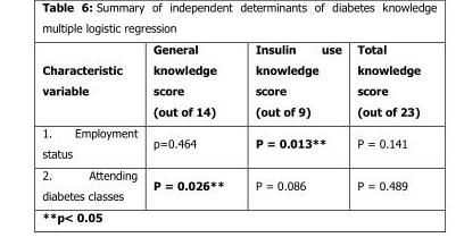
<table><thead><tr><td>Characteristic variable</td><td>General knowledge score (out of 14)</td><td>Insulin use knowledge score (out of 9)</td><td>Total knowledge score (out of 23)</td></tr></thead><tbody><tr><td>1. Employment status</td><td>p=0.464</td><td>P = 0.013**</td><td>P = 0.141</td></tr><tr><td>2. Attending diabetes classes</td><td>P = 0.026**</td><td>P = 0.086</td><td>P = 0.489</td></tr></tbody></table>